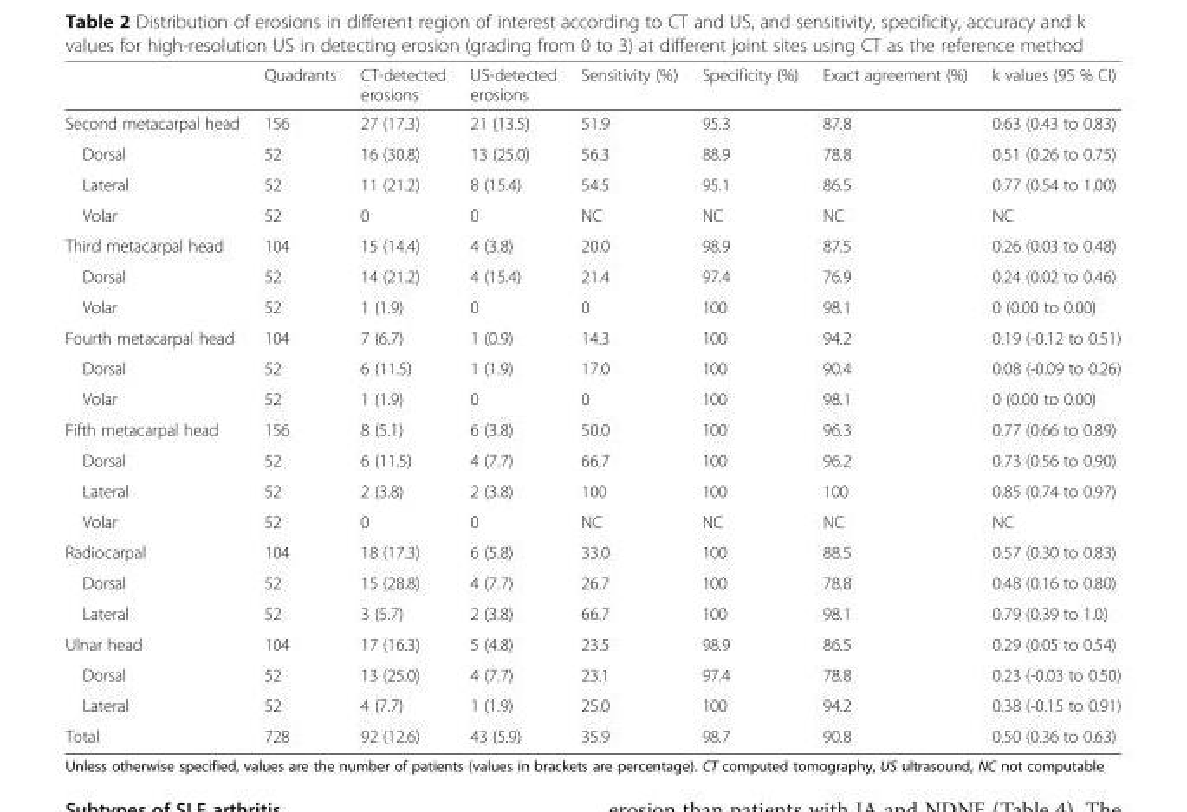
<table><thead><tr><td></td><td>Quadrants</td><td>CT-detected erosions</td><td>US-detected erosions</td><td>Sensitivity (%)</td><td>Specificity (%)</td><td>Exact agreement (%)</td><td>k values (95 % CI)</td></tr></thead><tbody><tr><td>Second metacarpal head</td><td>156</td><td>27 (17.3)</td><td>21 (13.5)</td><td>51.9</td><td>95.3</td><td>87.8</td><td>0.63 (0.43 to 0.83)</td></tr><tr><td>Dorsal</td><td>52</td><td>16 (30.8)</td><td>13 (25.0)</td><td>56.3</td><td>88.9</td><td>78.8</td><td>0.51 (0.26 to 0.75)</td></tr><tr><td>Lateral</td><td>52</td><td>11 (21.2)</td><td>8 (15.4)</td><td>54.5</td><td>95.1</td><td>86.5</td><td>0.77 (0.54 to 1.00)</td></tr><tr><td>Volar</td><td>52</td><td>0</td><td>0</td><td>NC</td><td>NC</td><td>NC</td><td>NC</td></tr><tr><td>Third metacarpal head</td><td>104</td><td>15 (14.4)</td><td>4 (3.8)</td><td>20.0</td><td>98.9</td><td>87.5</td><td>0.26 (0.03 to 0.48)</td></tr><tr><td>Dorsal</td><td>52</td><td>14 (21.2)</td><td>4 (15.4)</td><td>21.4</td><td>97.4</td><td>76.9</td><td>0.24 (0.02 to 0.46)</td></tr><tr><td>Volar</td><td>52</td><td>1 (1.9)</td><td>0</td><td>0</td><td>100</td><td>98.1</td><td>0 (0.00 to 0.00)</td></tr><tr><td>Fourth metacarpal head</td><td>104</td><td>7 (6.7)</td><td>1 (0.9)</td><td>14.3</td><td>100</td><td>94.2</td><td>0.19 (-0.12 to 0.51)</td></tr><tr><td>Dorsal</td><td>52</td><td>6 (11.5)</td><td>1 (1.9)</td><td>17.0</td><td>100</td><td>90.4</td><td>0.08 (-0.09 to 0.26)</td></tr><tr><td>Volar</td><td>52</td><td>1 (1.9)</td><td>0</td><td>0</td><td>100</td><td>98.1</td><td>0 (0.00 to 0.00)</td></tr><tr><td>Fifth metacarpal head</td><td>156</td><td>8 (5.1)</td><td>6 (3.8)</td><td>50.0</td><td>100</td><td>96.3</td><td>0.77 (0.66 to 0.89)</td></tr><tr><td>Dorsal</td><td>52</td><td>6 (11.5)</td><td>4 (7.7)</td><td>66.7</td><td>100</td><td>96.2</td><td>0.73 (0.56 to 0.90)</td></tr><tr><td>Lateral</td><td>52</td><td>2 (3.8)</td><td>2 (3.8)</td><td>100</td><td>100</td><td>100</td><td>0.85 (0.74 to 0.97)</td></tr><tr><td>Volar</td><td>52</td><td>0</td><td>0</td><td>NC</td><td>NC</td><td>NC</td><td>NC</td></tr><tr><td>Radiocarpal</td><td>104</td><td>18 (17.3)</td><td>6 (5.8)</td><td>33.0</td><td>100</td><td>88.5</td><td>0.57 (0.30 to 0.83)</td></tr><tr><td>Dorsal</td><td>52</td><td>15 (28.8)</td><td>4 (7.7)</td><td>26.7</td><td>100</td><td>78.8</td><td>0.48 (0.16 to 0.80)</td></tr><tr><td>Lateral</td><td>52</td><td>3 (5.7)</td><td>2 (3.8)</td><td>66.7</td><td>100</td><td>98.1</td><td>0.79 (0.39 to 1.0)</td></tr><tr><td>Ulnar head</td><td>104</td><td>17 (16.3)</td><td>5 (4.8)</td><td>23.5</td><td>98.9</td><td>86.5</td><td>0.29 (0.05 to 0.54)</td></tr><tr><td>Dorsal</td><td>52</td><td>13 (25.0)</td><td>4 (7.7)</td><td>23.1</td><td>97.4</td><td>78.8</td><td>0.23 (-0.03 to 0.50)</td></tr><tr><td>Lateral</td><td>52</td><td>4 (7.7)</td><td>1 (1.9)</td><td>25.0</td><td>100</td><td>94.2</td><td>0.38 (-0.15 to 0.91)</td></tr><tr><td>Total</td><td>728</td><td>92 (12.6)</td><td>43 (5.9)</td><td>35.9</td><td>98.7</td><td>90.8</td><td>0.50 (0.36 to 0.63)</td></tr></tbody></table>